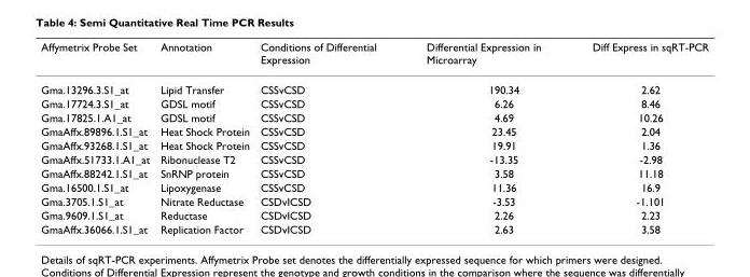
<table><thead><tr><td>Affymetrix Probe Set</td><td>Annotation</td><td>Conditions of Differential Expression</td><td>Differential Expression in Microarray</td><td>Diff Express in sqRT-PCR</td></tr></thead><tbody><tr><td>Gma.13296.3.S1_at</td><td>Lipid Transfer</td><td>CSSvCSD</td><td>190.34</td><td>2.62</td></tr><tr><td>Gma.17724.3.S1_at</td><td>GDSL motif</td><td>CSSvCSD</td><td>6.26</td><td>8.46</td></tr><tr><td>Gma.17825.1.A1_at</td><td>GDSL motif</td><td>CSSvCSD</td><td>4.69</td><td>10.26</td></tr><tr><td>GmaAffx.89896.1.S1_at</td><td>Heat Shock Protein</td><td>CSSvCSD</td><td>23.45</td><td>2.04</td></tr><tr><td>GmaAffx.93268.1.S1_at</td><td>Heat Shock Protein</td><td>CSSvCSD</td><td>19.91</td><td>1.36</td></tr><tr><td>GmaAffx.51733.1.A1_at</td><td>Ribonuclease T2</td><td>CSSvCSD</td><td>-13.35</td><td>-2.98</td></tr><tr><td>GmaAffx.88242.1.S1_at</td><td>SnRNP protein</td><td>CSSvCSD</td><td>3.58</td><td>11.18</td></tr><tr><td>Gma.16500.1.S1_at</td><td>Lipoxygenase</td><td>CSSvCSD</td><td>11.36</td><td>16.9</td></tr><tr><td>Gma.3705.1.S1_at</td><td>Nitrate Reductase</td><td>CSDvICSD</td><td>-3.53</td><td>-1.101</td></tr><tr><td>Gma.9609.1.S1_at</td><td>Reductase</td><td>CSDvICSD</td><td>2.26</td><td>2.23</td></tr><tr><td>GmaAffx.36066.1.S1_at</td><td>Replication Factor</td><td>CSDvICSD</td><td>2.63</td><td>3.58</td></tr></tbody></table>